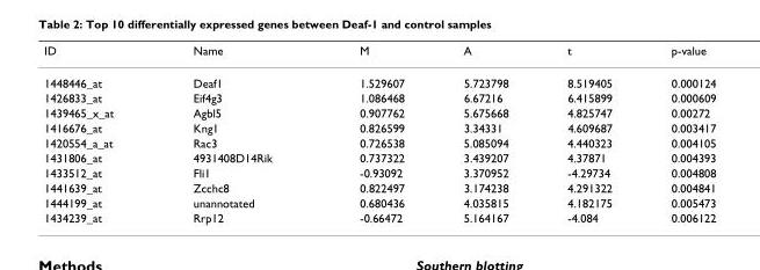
<table><thead><tr><td>ID</td><td>Name</td><td>M</td><td>A</td><td>t</td><td>p-value</td></tr></thead><tbody><tr><td>1448446_at</td><td>Deaf1</td><td>1.529607</td><td>5.723798</td><td>8.519405</td><td>0.000124</td></tr><tr><td>1426833_at</td><td>Eif4g3</td><td>1.086468</td><td>6.67216</td><td>6.415899</td><td>0.000609</td></tr><tr><td>1439465_x_at</td><td>Agbl5</td><td>0.907762</td><td>5.675668</td><td>4.825747</td><td>0.00272</td></tr><tr><td>1416676_at</td><td>Kng1</td><td>0.826599</td><td>3.34331</td><td>4.609687</td><td>0.003417</td></tr><tr><td>1420554_a_at</td><td>Rac3</td><td>0.726538</td><td>5.085094</td><td>4.440323</td><td>0.004105</td></tr><tr><td>1431806_at</td><td>4931408D14Rik</td><td>0.737322</td><td>3.439207</td><td>4.37871</td><td>0.004393</td></tr><tr><td>1433512_at</td><td>Fli1</td><td>-0.93092</td><td>3.370952</td><td>-4.29734</td><td>0.004808</td></tr><tr><td>1441639_at</td><td>Zcchc8</td><td>0.822497</td><td>3.174238</td><td>4.291322</td><td>0.004841</td></tr><tr><td>1444199_at</td><td>unannotated</td><td>0.680436</td><td>4.035815</td><td>4.182175</td><td>0.005473</td></tr><tr><td>1434239_at</td><td>Rrp12</td><td>-0.66472</td><td>5.164167</td><td>-4.084</td><td>0.006122</td></tr></tbody></table>